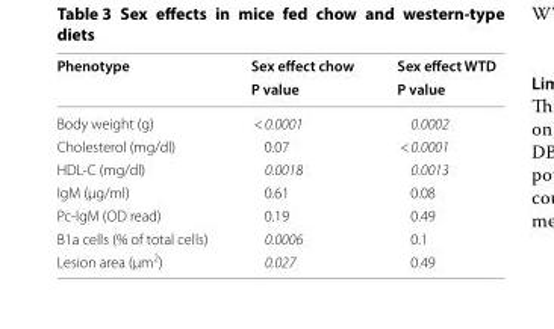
<table><thead><tr><td rowspan="2">Phenotype</td><td rowspan="2">Sex effect chow P value</td><td rowspan="2">Sex effect WTD P value</td></tr><tr></tr></thead><tbody><tr><td>Body weight (g)</td><td>&lt; 0.0001</td><td>0.0002</td></tr><tr><td>Cholesterol (mg/dl)</td><td>0.07</td><td>&lt; 0.0001</td></tr><tr><td>HDL‑C (mg/dl)</td><td>0.0018</td><td>0.0013</td></tr><tr><td>IgM (μg/ml)</td><td>0.61</td><td>0.08</td></tr><tr><td>Pc‑IgM (OD read)</td><td>0.19</td><td>0.49</td></tr><tr><td>B1a cells (% of total cells)</td><td>0.0006</td><td>0.1</td></tr><tr><td>Lesion area (μm<sup>2</sup>)</td><td>0.027</td><td>0.49</td></tr></tbody></table>